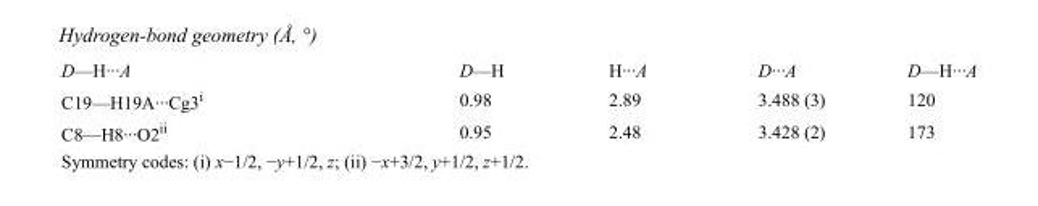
<table><tbody><tr><td>D—H···A</td><td>D—H</td><td>H···A</td><td>D···A</td><td>D—H···A</td></tr><tr><td>C19—H19A···Cg3<sup>i</sup></td><td>0.98</td><td>2.89</td><td>3.488 (3)</td><td>120</td></tr><tr><td>C8—H8···O2<sup>ii</sup></td><td>0.95</td><td>2.48</td><td>3.428 (2)</td><td>173</td></tr></tbody></table>